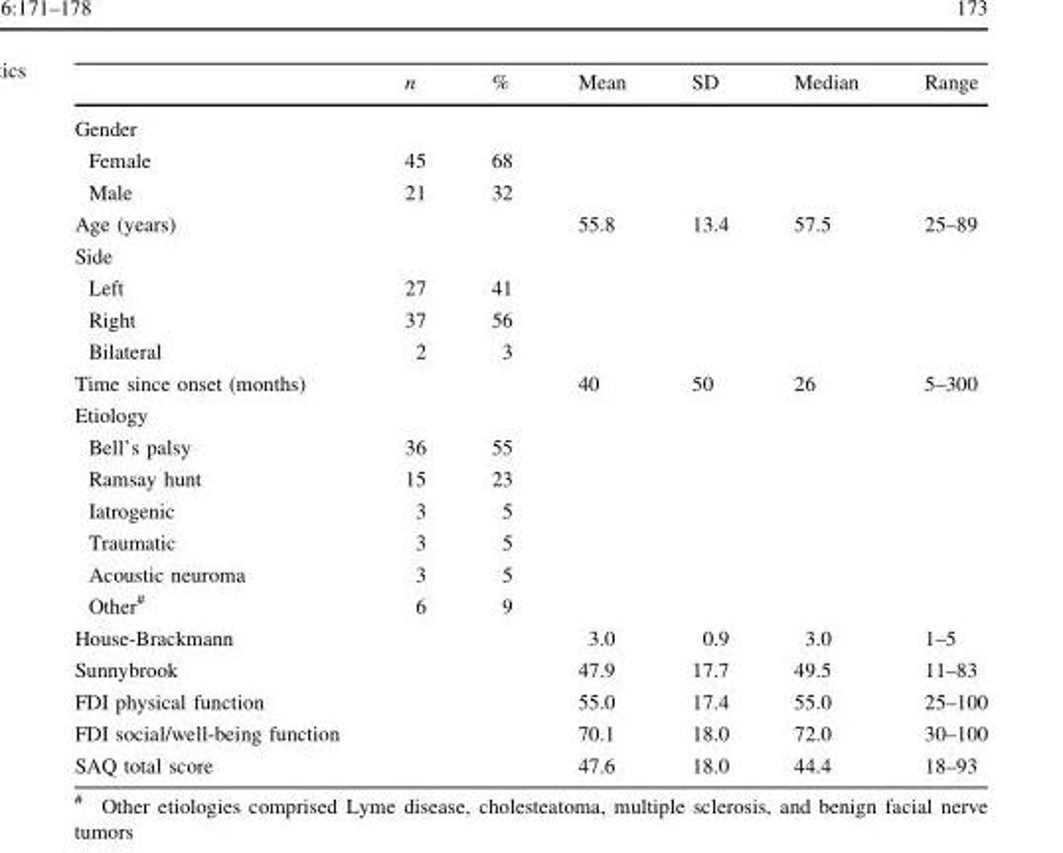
<table><thead><tr><td></td><td>n</td><td>%</td><td>Mean</td><td>SD</td><td>Median</td><td>Range</td></tr></thead><tbody><tr><td colspan="7">Gender</td></tr><tr><td>Female</td><td>45</td><td>68</td><td></td><td></td><td></td><td></td></tr><tr><td>Male</td><td>21</td><td>32</td><td></td><td></td><td></td><td></td></tr><tr><td>Age (years)</td><td></td><td></td><td>55.8</td><td>13.4</td><td>57.5</td><td>25–89</td></tr><tr><td colspan="7">Side</td></tr><tr><td>Left</td><td>27</td><td>41</td><td></td><td></td><td></td><td></td></tr><tr><td>Right</td><td>37</td><td>56</td><td></td><td></td><td></td><td></td></tr><tr><td>Bilateral</td><td>2</td><td>3</td><td></td><td></td><td></td><td></td></tr><tr><td>Time since onset (months)</td><td></td><td></td><td>40</td><td>50</td><td>26</td><td>5–300</td></tr><tr><td colspan="7">Etiology</td></tr><tr><td>Bell’s palsy</td><td>36</td><td>55</td><td></td><td></td><td></td><td></td></tr><tr><td>Ramsay hunt</td><td>15</td><td>23</td><td></td><td></td><td></td><td></td></tr><tr><td>Iatrogenic</td><td>3</td><td>5</td><td></td><td></td><td></td><td></td></tr><tr><td>Traumatic</td><td>3</td><td>5</td><td></td><td></td><td></td><td></td></tr><tr><td>Acoustic neuroma</td><td>3</td><td>5</td><td></td><td></td><td></td><td></td></tr><tr><td>Other<sup>#</sup></td><td>6</td><td>9</td><td></td><td></td><td></td><td></td></tr><tr><td>House-Brackmann</td><td></td><td></td><td>3.0</td><td>0.9</td><td>3.0</td><td>1–5</td></tr><tr><td>Sunnybrook</td><td></td><td></td><td>47.9</td><td>17.7</td><td>49.5</td><td>11–83</td></tr><tr><td>FDI physical function</td><td></td><td></td><td>55.0</td><td>17.4</td><td>55.0</td><td>25–100</td></tr><tr><td>FDI social/well-being function</td><td></td><td></td><td>70.1</td><td>18.0</td><td>72.0</td><td>30–100</td></tr><tr><td>SAQ total score</td><td></td><td></td><td>47.6</td><td>18.0</td><td>44.4</td><td>18–93</td></tr></tbody></table>